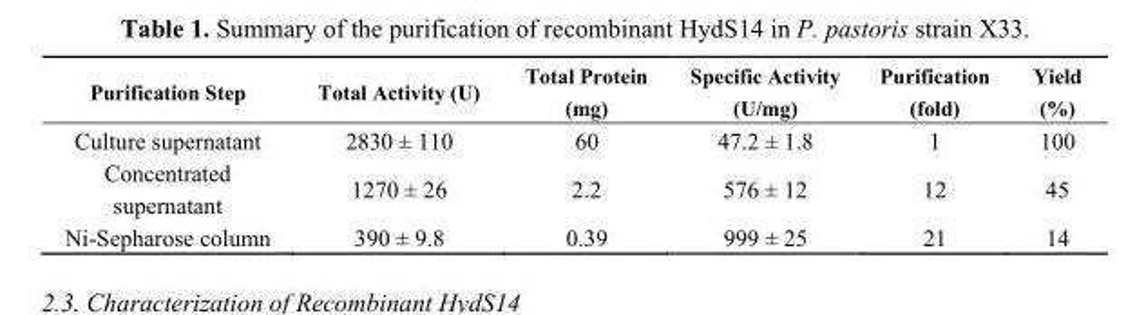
<table><thead><tr><td>Purification Step</td><td>Total Activity (U)</td><td>Total Protein (mg)</td><td>Specific Activity (U/mg)</td><td>Purification (fold)</td><td>Yield (%)</td></tr></thead><tbody><tr><td>Culture supernatant</td><td>2830 ± 110</td><td>60</td><td>47.2 ± 1.8</td><td>1</td><td>100</td></tr><tr><td>Concentrated supernatant</td><td>1270 ± 26</td><td>2.2</td><td>576 ± 12</td><td>12</td><td>45</td></tr><tr><td>Ni-Sepharose column</td><td>390 ± 9.8</td><td>0.39</td><td>999 ± 25</td><td>21</td><td>14</td></tr></tbody></table>